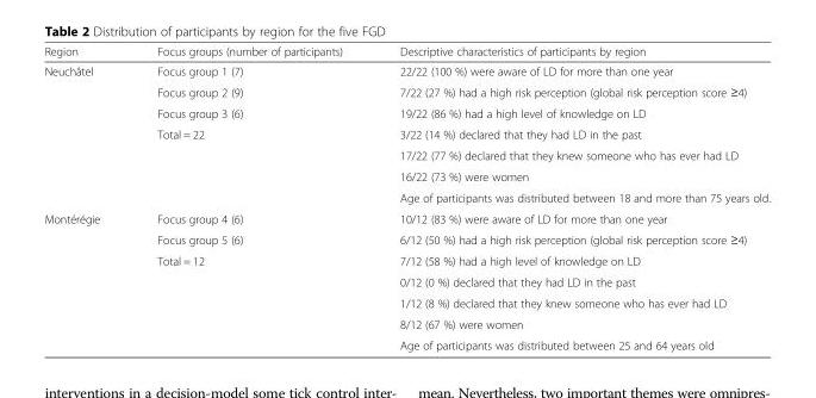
<table><thead><tr><td>Region</td><td>Focus groups (number of participants)</td><td>Descriptive characteristics of participants by region</td></tr></thead><tbody><tr><td rowspan="7">Neuchâtel</td><td>Focus group 1 (7)</td><td>22/22 (100 %) were aware of LD for more than one year</td></tr><tr><td>Focus group 2 (9)</td><td>7/22 (27 %) had a high risk perception (global risk perception score ≥4)</td></tr><tr><td>Focus group 3 (6)</td><td>19/22 (86 %) had a high level of knowledge on LD</td></tr><tr><td rowspan="4">Total = 22</td><td>3/22 (14 %) declared that they had LD in the past</td></tr><tr><td>17/22 (77 %) declared that they knew someone who has ever had LD</td></tr><tr><td>16/22 (73 %) were women</td></tr><tr><td>Age of participants was distributed between 18 and more than 75 years old.</td></tr><tr><td rowspan="7">Montérégie</td><td>Focus group 4 (6)</td><td>10/12 (83 %) were aware of LD for more than one year</td></tr><tr><td>Focus group 5 (6)</td><td>6/12 (50 %) had a high risk perception (global risk perception score ≥4)</td></tr><tr><td rowspan="5">Total = 12</td><td>7/12 (58 %) had a high level of knowledge on LD</td></tr><tr><td>0/12 (0 %) declared that they had LD in the past</td></tr><tr><td>1/12 (8 %) declared that they knew someone who has ever had LD</td></tr><tr><td>8/12 (67 %) were women</td></tr><tr><td>Age of participants was distributed between 25 and 64 years old</td></tr></tbody></table>